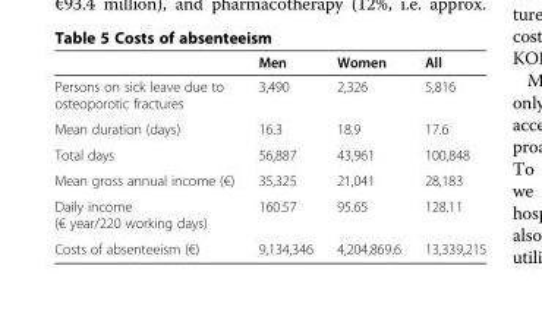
<table><thead><tr><td></td><td>Men</td><td>Women</td><td>All</td></tr></thead><tbody><tr><td>Persons on sick leave due to osteoporotic fractures</td><td>3,490</td><td>2,326</td><td>5,816</td></tr><tr><td>Mean duration (days)</td><td>16.3</td><td>18.9</td><td>17.6</td></tr><tr><td>Total days</td><td>56,887</td><td>43,961</td><td>100,848</td></tr><tr><td>Mean gross annual income (€)</td><td>35,325</td><td>21,041</td><td>28,183</td></tr><tr><td>Daily income (€ year/220 working days)</td><td>160.57</td><td>95.65</td><td>128.11</td></tr><tr><td>Costs of absenteeism (€)</td><td>9,134,346</td><td>4,204,869.6</td><td>13,339,215</td></tr></tbody></table>